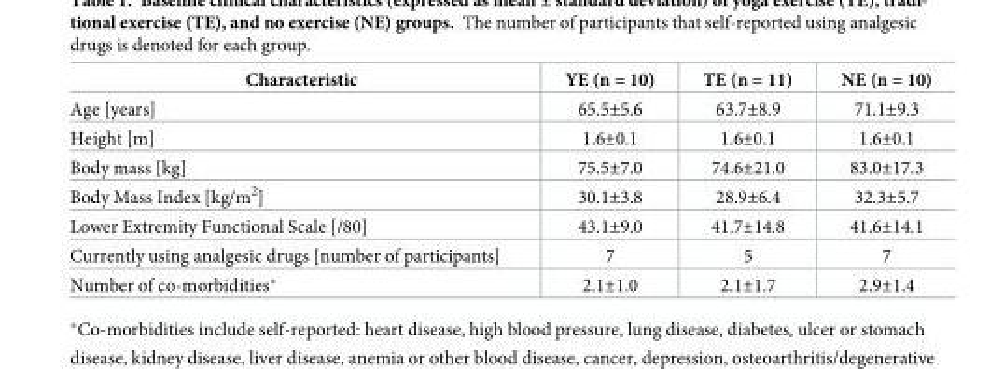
<table><thead><tr><td>Characteristic</td><td>YE (n = 10)</td><td>TE (n = 11)</td><td>NE (n = 10)</td></tr></thead><tbody><tr><td>Age [years]</td><td>65.5±5.6</td><td>63.7±8.9</td><td>71.1±9.3</td></tr><tr><td>Height [m]</td><td>1.6±0.1</td><td>1.6±0.1</td><td>1.6±0.1</td></tr><tr><td>Body mass [kg]</td><td>75.5±7.0</td><td>74.6±21.0</td><td>83.0±17.3</td></tr><tr><td>Body Mass Index [kg/m<sup>2</sup>]</td><td>30.1±3.8</td><td>28.9±6.4</td><td>32.3±5.7</td></tr><tr><td>Lower Extremity Functional Scale [/80]</td><td>43.1±9.0</td><td>41.7±14.8</td><td>41.6±14.1</td></tr><tr><td>Currently using analgesic drugs [number of participants]</td><td>7</td><td>5</td><td>7</td></tr><tr><td>Number of co-morbidities*</td><td>2.1±1.0</td><td>2.1±1.7</td><td>2.9±1.4</td></tr></tbody></table>